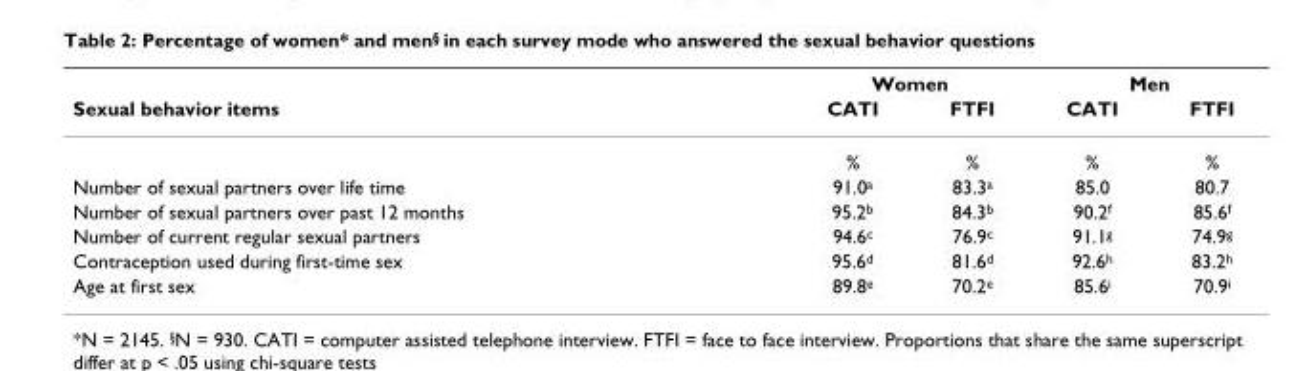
<table><thead><tr><td rowspan="2">Sexual behavior items</td><td colspan="2">Women</td><td colspan="2">Men</td></tr><tr><td>CATI</td><td>FTFI</td><td>CATI</td><td>FTFI</td></tr></thead><tbody><tr><td></td><td>%</td><td>%</td><td>%</td><td>%</td></tr><tr><td>Number of sexual partners over life time</td><td>91.0<sup>a</sup></td><td>83.3<sup>a</sup></td><td>85.0</td><td>80.7</td></tr><tr><td>Number of sexual partners over past 12 months</td><td>95.2<sup>b</sup></td><td>84.3<sup>b</sup></td><td>90.2<sup>f</sup></td><td>85.6<sup>f</sup></td></tr><tr><td>Number of current regular sexual partners</td><td>94.6<sup>c</sup></td><td>76.9<sup>c</sup></td><td>91.1<sup>g</sup></td><td>74.9<sup>g</sup></td></tr><tr><td>Contraception used during first-time sex</td><td>95.6<sup>d</sup></td><td>81.6<sup>d</sup></td><td>92.6<sup>h</sup></td><td>83.2<sup>h</sup></td></tr><tr><td>Age at first sex</td><td>89.8<sup>e</sup></td><td>70.2<sup>e</sup></td><td>85.6<sup>i</sup></td><td>70.9<sup>i</sup></td></tr></tbody></table>